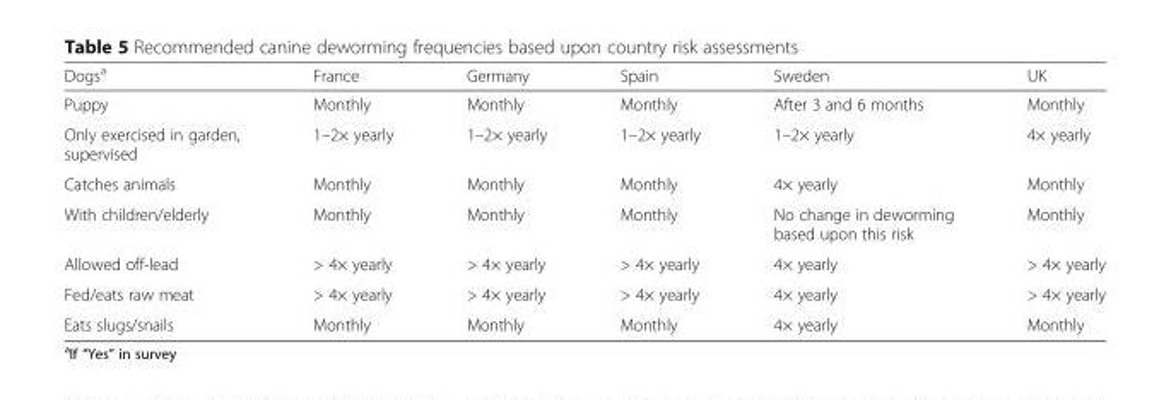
<table><thead><tr><td>Dogs<sup>a</sup></td><td>France</td><td>Germany</td><td>Spain</td><td>Sweden</td><td>UK</td></tr></thead><tbody><tr><td>Puppy</td><td>Monthly</td><td>Monthly</td><td>Monthly</td><td>After 3 and 6 months</td><td>Monthly</td></tr><tr><td>Only exercised in garden, supervised</td><td>1–2× yearly</td><td>1–2× yearly</td><td>1–2× yearly</td><td>1–2× yearly</td><td>4× yearly</td></tr><tr><td>Catches animals</td><td>Monthly</td><td>Monthly</td><td>Monthly</td><td>4× yearly</td><td>Monthly</td></tr><tr><td>With children/elderly</td><td>Monthly</td><td>Monthly</td><td>Monthly</td><td>No change in deworming based upon this risk</td><td>Monthly</td></tr><tr><td>Allowed off-lead</td><td>&gt; 4× yearly</td><td>&gt; 4× yearly</td><td>&gt; 4× yearly</td><td>4× yearly</td><td>&gt; 4× yearly</td></tr><tr><td>Fed/eats raw meat</td><td>&gt; 4× yearly</td><td>&gt; 4× yearly</td><td>&gt; 4× yearly</td><td>4× yearly</td><td>&gt; 4× yearly</td></tr><tr><td>Eats slugs/snails</td><td>Monthly</td><td>Monthly</td><td>Monthly</td><td>4× yearly</td><td>Monthly</td></tr></tbody></table>